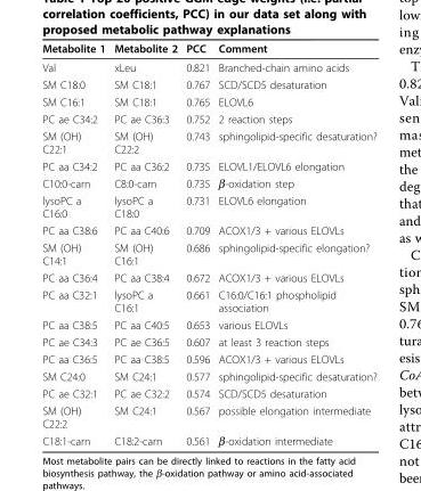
<table><thead><tr><td>Metabolite 1</td><td>Metabolite 2</td><td>PCC</td><td>Comment</td></tr></thead><tbody><tr><td>Val</td><td>xLeu</td><td>0.821</td><td>Branched-chain amino acids</td></tr><tr><td>SM C18:0</td><td>SM C18:1</td><td>0.767</td><td>SCD/SCD5 desaturation</td></tr><tr><td>SM C16:1</td><td>SM C18:1</td><td>0.765</td><td>ELOVL6</td></tr><tr><td>PC ae C34:2</td><td>PC ae C36:3</td><td>0.752</td><td>2 reaction steps</td></tr><tr><td>SM (OH) C22:1</td><td>SM (OH) C22:2</td><td>0.743</td><td>sphingolipid-specific desaturation?</td></tr><tr><td>PC aa C34:2</td><td>PC aa C36:2</td><td>0.735</td><td>ELOVL1/ELOVL6 elongation</td></tr><tr><td>C10:0-carn</td><td>C8:0-carn</td><td>0.735</td><td>β-oxidation step</td></tr><tr><td>lysoPC a C16:0</td><td>lysoPC a C18:0</td><td>0.731</td><td>ELOVL6 elongation</td></tr><tr><td>PC aa C38:6</td><td>PC aa C40:6</td><td>0.709</td><td>ACOX1/3 + various ELOVLs</td></tr><tr><td>SM (OH) C14:1</td><td>SM (OH) C16:1</td><td>0.686</td><td>sphingolipid-specific elongation?</td></tr><tr><td>PC aa C36:4</td><td>PC aa C38:4</td><td>0.672</td><td>ACOX1/3 + various ELOVLs</td></tr><tr><td>PC aa C32:1</td><td>lysoPC a C16:1</td><td>0.661</td><td>C16:0/C16:1 phospholipid association</td></tr><tr><td>PC aa C38:5</td><td>PC aa C40:5</td><td>0.653</td><td>various ELOVLs</td></tr><tr><td>PC ae C34:3</td><td>PC ae C36:5</td><td>0.607</td><td>at least 3 reaction steps</td></tr><tr><td>PC aa C36:5</td><td>PC aa C38:5</td><td>0.596</td><td>ACOX1/3 + various ELOVLs</td></tr><tr><td>SM C24:0</td><td>SM C24:1</td><td>0.577</td><td>sphingolipid-specific desaturation?</td></tr><tr><td>PC ae C32:1</td><td>PC ae C32:2</td><td>0.574</td><td>SCD/SCD5 desaturation</td></tr><tr><td>SM (OH) C22:2</td><td>SM C24:1</td><td>0.567</td><td>possible elongation intermediate</td></tr><tr><td>C18:1-carn</td><td>C18:2-carn</td><td>0.561</td><td>β-oxidation intermediate</td></tr></tbody></table>